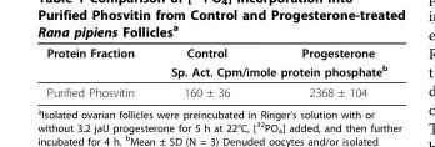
<table><thead><tr><td rowspan="2">Protein Fraction</td><td>Control</td><td>Progesterone</td></tr><tr><td colspan="2">Sp. Act. Cpm/ìmole protein phosphate<sup>b</sup></td></tr></thead><tbody><tr><td>Purified Phosvitin</td><td>160 ± 36</td><td>2368 ± 104</td></tr></tbody></table>